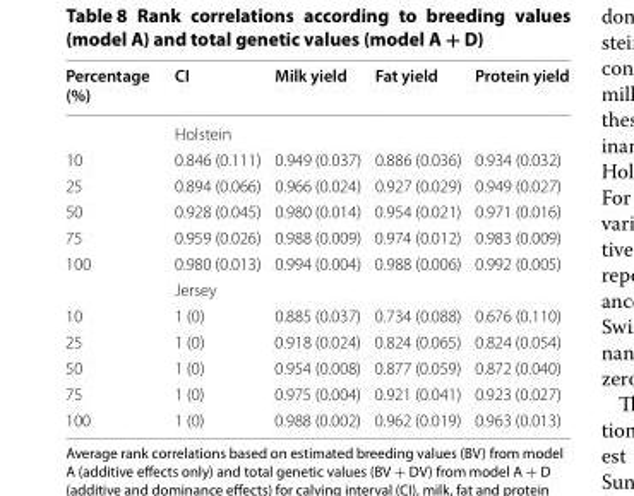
<table><thead><tr><td>Percentage (%)</td><td>CI</td><td>Milk yield</td><td>Fat yield</td><td>Protein yield</td></tr></thead><tbody><tr><td></td><td colspan="4">Holstein</td></tr><tr><td>10</td><td>0.846 (0.111)</td><td>0.949 (0.037)</td><td>0.886 (0.036)</td><td>0.934 (0.032)</td></tr><tr><td>25</td><td>0.894 (0.066)</td><td>0.966 (0.024)</td><td>0.927 (0.029)</td><td>0.949 (0.027)</td></tr><tr><td>50</td><td>0.928 (0.045)</td><td>0.980 (0.014)</td><td>0.954 (0.021)</td><td>0.971 (0.016)</td></tr><tr><td>75</td><td>0.959 (0.026)</td><td>0.988 (0.009)</td><td>0.974 (0.012)</td><td>0.983 (0.009)</td></tr><tr><td rowspan="2">100</td><td>0.980 (0.013)</td><td>0.994 (0.004)</td><td>0.988 (0.006)</td><td>0.992 (0.005)</td></tr><tr><td colspan="4">Jersey</td></tr><tr><td>10</td><td>1 (0)</td><td>0.885 (0.037)</td><td>0.734 (0.088)</td><td>0.676 (0.110)</td></tr><tr><td>25</td><td>1 (0)</td><td>0.918 (0.024)</td><td>0.824 (0.065)</td><td>0.824 (0.054)</td></tr><tr><td>50</td><td>1 (0)</td><td>0.954 (0.008)</td><td>0.877 (0.059)</td><td>0.872 (0.040)</td></tr><tr><td>75</td><td>1 (0)</td><td>0.975 (0.004)</td><td>0.921 (0.041)</td><td>0.923 (0.027)</td></tr><tr><td>100</td><td>1 (0)</td><td>0.988 (0.002)</td><td>0.962 (0.019)</td><td>0.963 (0.013)</td></tr></tbody></table>